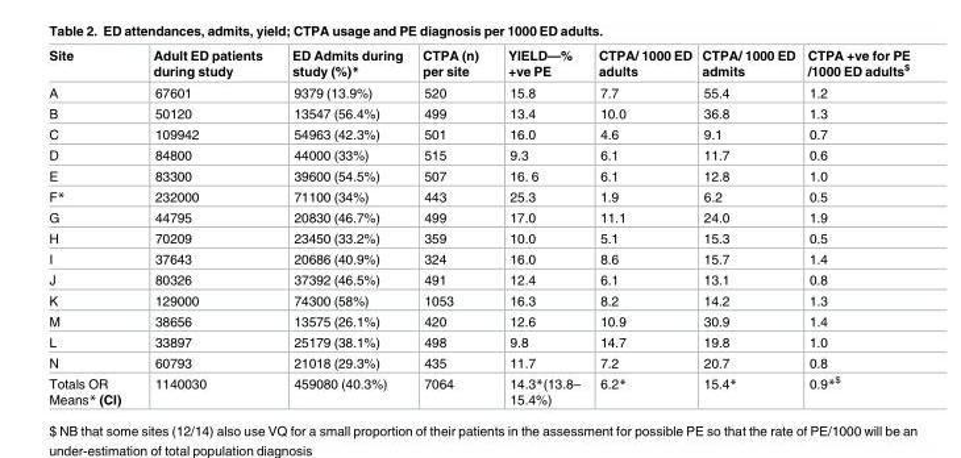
<table><thead><tr><td>Site</td><td>Adult ED patients during study</td><td>ED Admits during study (%)*</td><td>CTPA (n) per site</td><td>YIELD—% +ve PE</td><td>CTPA/ 1000 ED adults</td><td>CTPA/ 1000 ED admits</td><td>CTPA +ve for PE /1000 ED adults<sup>$</sup></td></tr></thead><tbody><tr><td>A</td><td>67601</td><td>9379 (13.9%)</td><td>520</td><td>15.8</td><td>7.7</td><td>55.4</td><td>1.2</td></tr><tr><td>B</td><td>50120</td><td>13547 (56.4%)</td><td>499</td><td>13.4</td><td>10.0</td><td>36.8</td><td>1.3</td></tr><tr><td>C</td><td>109942</td><td>54963 (42.3%)</td><td>501</td><td>16.0</td><td>4.6</td><td>9.1</td><td>0.7</td></tr><tr><td>D</td><td>84800</td><td>44000 (33%)</td><td>515</td><td>9.3</td><td>6.1</td><td>11.7</td><td>0.6</td></tr><tr><td>E</td><td>83300</td><td>39600 (54.5%)</td><td>507</td><td>16. 6</td><td>6.1</td><td>12.8</td><td>1.0</td></tr><tr><td>F*</td><td>232000</td><td>71100 (34%)</td><td>443</td><td>25.3</td><td>1.9</td><td>6.2</td><td>0.5</td></tr><tr><td>G</td><td>44795</td><td>20830 (46.7%)</td><td>499</td><td>17.0</td><td>11.1</td><td>24.0</td><td>1.9</td></tr><tr><td>H</td><td>70209</td><td>23450 (33.2%)</td><td>359</td><td>10.0</td><td>5.1</td><td>15.3</td><td>0.5</td></tr><tr><td>I</td><td>37643</td><td>20686 (40.9%)</td><td>324</td><td>16.0</td><td>8.6</td><td>15.7</td><td>1.4</td></tr><tr><td>J</td><td>80326</td><td>37392 (46.5%)</td><td>491</td><td>12.4</td><td>6.1</td><td>13.1</td><td>0.8</td></tr><tr><td>K</td><td>129000</td><td>74300 (58%)</td><td>1053</td><td>16.3</td><td>8.2</td><td>14.2</td><td>1.3</td></tr><tr><td>M</td><td>38656</td><td>13575 (26.1%)</td><td>420</td><td>12.6</td><td>10.9</td><td>30.9</td><td>1.4</td></tr><tr><td>L</td><td>33897</td><td>25179 (38.1%)</td><td>498</td><td>9.8</td><td>14.7</td><td>19.8</td><td>1.0</td></tr><tr><td>N</td><td>60793</td><td>21018 (29.3%)</td><td>435</td><td>11.7</td><td>7.2</td><td>20.7</td><td>0.8</td></tr><tr><td>Totals OR Means* (CI)</td><td>1140030</td><td>459080 (40.3%)</td><td>7064</td><td>14.3*(13.8– 15.4%)</td><td>6.2*</td><td>15.4*</td><td>0.9*<sup>$</sup></td></tr></tbody></table>